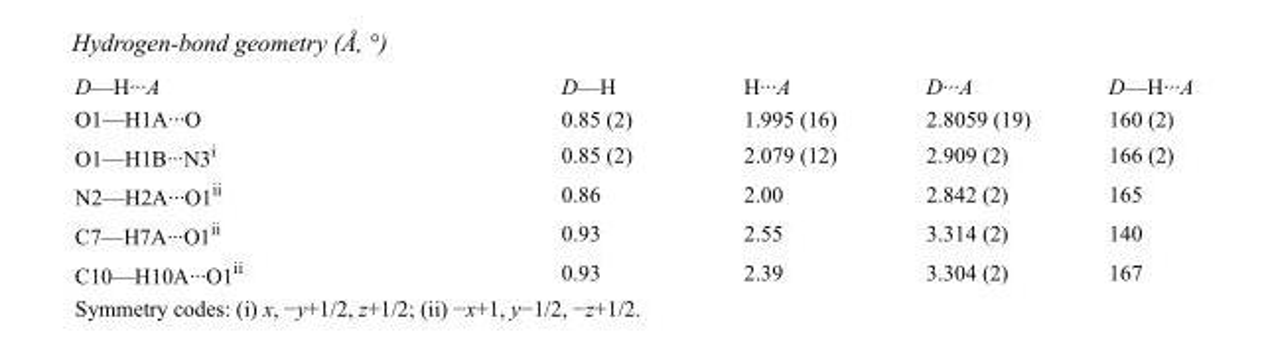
<table><tbody><tr><td>D—H···A</td><td>D—H</td><td>H···A</td><td>D···A</td><td>D—H···A</td></tr><tr><td>O1—H1A···O</td><td>0.85 (2)</td><td>1.995 (16)</td><td>2.8059 (19)</td><td>160 (2)</td></tr><tr><td>O1—H1B···N3<sup>i</sup></td><td>0.85 (2)</td><td>2.079 (12)</td><td>2.909 (2)</td><td>166 (2)</td></tr><tr><td>N2—H2A···O1<sup>ii</sup></td><td>0.86</td><td>2.00</td><td>2.842 (2)</td><td>165</td></tr><tr><td>C7—H7A···O1<sup>ii</sup></td><td>0.93</td><td>2.55</td><td>3.314 (2)</td><td>140</td></tr><tr><td>C10—H10A···O1<sup>ii</sup></td><td>0.93</td><td>2.39</td><td>3.304 (2)</td><td>167</td></tr></tbody></table>